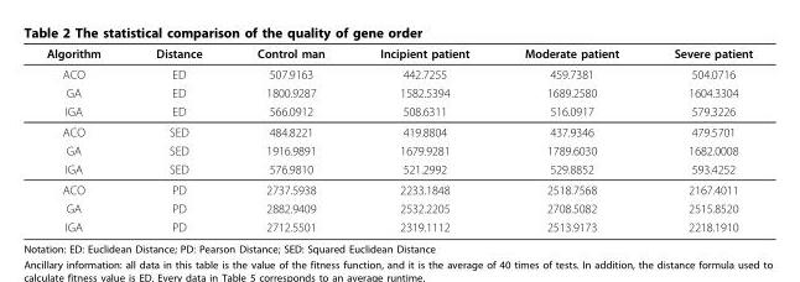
<table><thead><tr><td>Algorithm</td><td>Distance</td><td>Control man</td><td>Incipient patient</td><td>Moderate patient</td><td>Severe patient</td></tr></thead><tbody><tr><td>ACO</td><td>ED</td><td>507.9163</td><td>442.7255</td><td>459.7381</td><td>504.0716</td></tr><tr><td>GA</td><td>ED</td><td>1800.9287</td><td>1582.5394</td><td>1689.2580</td><td>1604.3304</td></tr><tr><td>IGA</td><td>ED</td><td>566.0912</td><td>508.6311</td><td>516.0917</td><td>579.3226</td></tr><tr><td>ACO</td><td>SED</td><td>484.8221</td><td>419.8804</td><td>437.9346</td><td>479.5701</td></tr><tr><td>GA</td><td>SED</td><td>1916.9891</td><td>1679.9281</td><td>1789.6030</td><td>1682.0008</td></tr><tr><td>IGA</td><td>SED</td><td>576.9810</td><td>521.2992</td><td>529.8852</td><td>593.4252</td></tr><tr><td>ACO</td><td>PD</td><td>2737.5938</td><td>2233.1848</td><td>2518.7568</td><td>2167.4011</td></tr><tr><td>GA</td><td>PD</td><td>2882.9409</td><td>2532.2205</td><td>2708.5082</td><td>2515.8520</td></tr><tr><td>IGA</td><td>PD</td><td>2712.5501</td><td>2319.1112</td><td>2513.9173</td><td>2218.1910</td></tr></tbody></table>